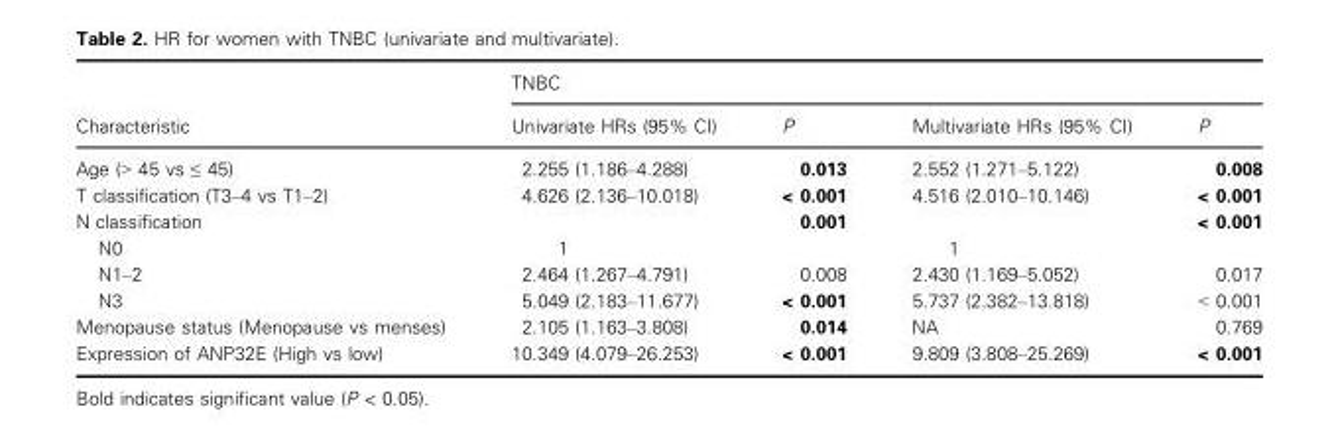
<table><thead><tr><td rowspan="2">Characteristic</td><td colspan="4">TNBC</td></tr><tr><td>Univariate HRs (95% CI)</td><td>P</td><td>Multivariate HRs (95% CI)</td><td>P</td></tr></thead><tbody><tr><td>Age (&gt; 45 vs ≤ 45)</td><td>2.255 (1.186–4.288)</td><td>0.013</td><td>2.552 (1.271–5.122)</td><td>0.008</td></tr><tr><td>T classification (T3–4 vs T1–2)</td><td>4.626 (2.136–10.018)</td><td>&lt; 0.001</td><td>4.516 (2.010–10.146)</td><td>&lt; 0.001</td></tr><tr><td>N classification</td><td></td><td>0.001</td><td></td><td>&lt; 0.001</td></tr><tr><td>N0</td><td>1</td><td></td><td>1</td><td></td></tr><tr><td>N1–2</td><td>2.464 (1.267–4.791)</td><td>0.008</td><td>2.430 (1.169–5.052)</td><td>0.017</td></tr><tr><td>N3</td><td>5.049 (2.183–11.677)</td><td>&lt; 0.001</td><td>5.737 (2.382–13.818)</td><td>&lt; 0.001</td></tr><tr><td>Menopause status (Menopause vs menses)</td><td>2.105 (1.163–3.808)</td><td>0.014</td><td>NA</td><td>0.769</td></tr><tr><td>Expression of ANP32E (High vs low)</td><td>10.349 (4.079–26.253)</td><td>&lt; 0.001</td><td>9.809 (3.808–25.269)</td><td>&lt; 0.001</td></tr></tbody></table>